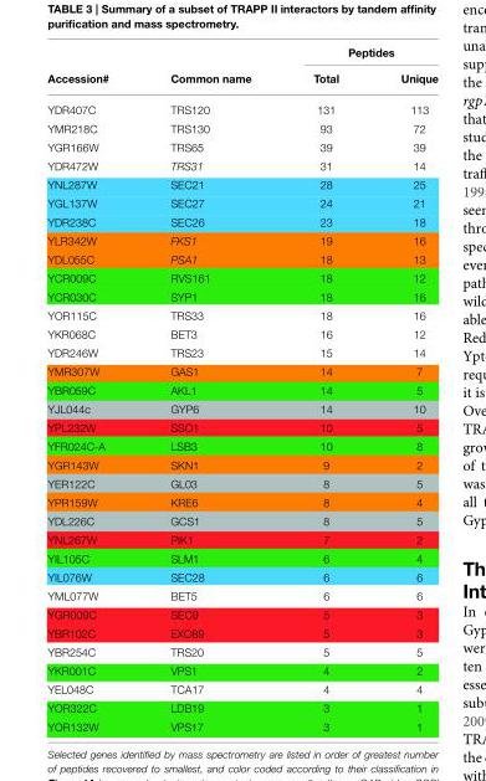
<table><thead><tr><td rowspan="2">Accession#</td><td rowspan="2">Common name</td><td colspan="2">Peptides</td></tr><tr><td>Total</td><td>Unique</td></tr></thead><tbody><tr><td>YDR407C</td><td>TRS120</td><td>131</td><td>113</td></tr><tr><td>YMR218C</td><td>TRS130</td><td>93</td><td>72</td></tr><tr><td>YGR166W</td><td>TRS65</td><td>39</td><td>39</td></tr><tr><td>YDR472W</td><td>TRS31</td><td>31</td><td>14</td></tr><tr><td>YNL287W</td><td>SEC21</td><td>28</td><td>25</td></tr><tr><td>YGL137W</td><td>SEC27</td><td>24</td><td>21</td></tr><tr><td>YDR238C</td><td>SEC26</td><td>23</td><td>18</td></tr><tr><td>YLR342W</td><td>FKS1</td><td>19</td><td>16</td></tr><tr><td>YDL055C</td><td>PSA1</td><td>18</td><td>13</td></tr><tr><td>YCR009C</td><td>RVS161</td><td>18</td><td>12</td></tr><tr><td>YCR030C</td><td>SYP1</td><td>18</td><td>16</td></tr><tr><td>YOR115C</td><td>TRS33</td><td>18</td><td>16</td></tr><tr><td>YKR068C</td><td>BET3</td><td>16</td><td>12</td></tr><tr><td>YDR246W</td><td>TRS23</td><td>15</td><td>14</td></tr><tr><td>YMR307W</td><td>GAS1</td><td>14</td><td>7</td></tr><tr><td>YBR059C</td><td>AKL1</td><td>14</td><td>5</td></tr><tr><td>YJL044c</td><td>GYP6</td><td>14</td><td>10</td></tr><tr><td>YPL232W</td><td>SSO1</td><td>10</td><td>5</td></tr><tr><td>YFR024C-A</td><td>LSB3</td><td>10</td><td>8</td></tr><tr><td>YGR143W</td><td>SKN1</td><td>9</td><td>2</td></tr><tr><td>YER122C</td><td>GL03</td><td>8</td><td>5</td></tr><tr><td>YPR159W</td><td>KRE6</td><td>8</td><td>4</td></tr><tr><td>YDL226C</td><td>GCS1</td><td>8</td><td>5</td></tr><tr><td>YNL267W</td><td>PIK1</td><td>7</td><td>2</td></tr><tr><td>YIL105C</td><td>SLM1</td><td>6</td><td>4</td></tr><tr><td>YIL076W</td><td>SEC28</td><td>6</td><td>6</td></tr><tr><td>YML077W</td><td>BET5</td><td>6</td><td>6</td></tr><tr><td>YGR009C</td><td>SEC9</td><td>5</td><td>3</td></tr><tr><td>YBR102C</td><td>EXO89</td><td>5</td><td>3</td></tr><tr><td>YBR254C</td><td>TRS20</td><td>5</td><td>5</td></tr><tr><td>YKR001C</td><td>VPS1</td><td>4</td><td>2</td></tr><tr><td>YEL048C</td><td>TCA17</td><td>4</td><td>4</td></tr><tr><td>YOR322C</td><td>LDB19</td><td>3</td><td>1</td></tr><tr><td>YOR132W</td><td>VPS17</td><td>3</td><td>1</td></tr></tbody></table>